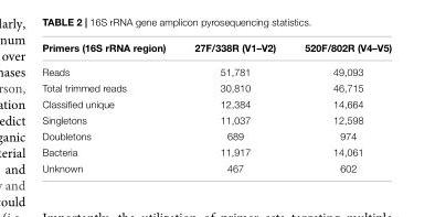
<table><thead><tr><td>Primers (16S rRNA region)</td><td>27F/338R (V1–V2)</td><td>520F/802R (V4–V5)</td></tr></thead><tbody><tr><td>Reads</td><td>51,781</td><td>49,093</td></tr><tr><td>Total trimmed reads</td><td>30,810</td><td>46,715</td></tr><tr><td>Classified unique</td><td>12,384</td><td>14,664</td></tr><tr><td>Singletons</td><td>11,037</td><td>12,598</td></tr><tr><td>Doubletons</td><td>689</td><td>974</td></tr><tr><td>Bacteria</td><td>11,917</td><td>14,061</td></tr><tr><td>Unknown</td><td>467</td><td>602</td></tr></tbody></table>